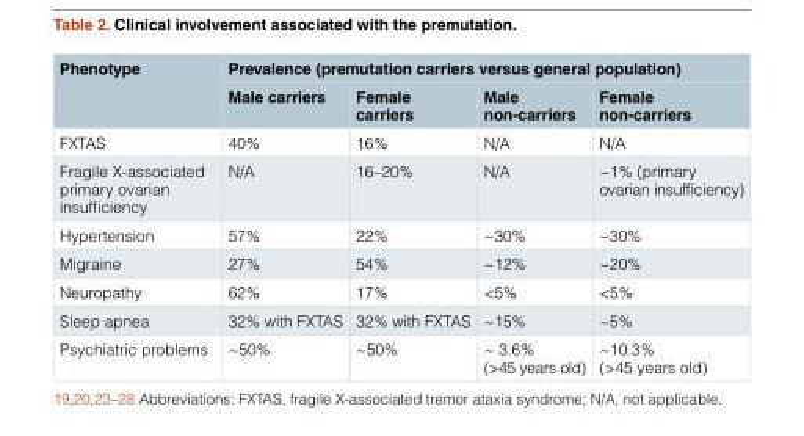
<table><thead><tr><td rowspan="2">Phenotype</td><td colspan="4">Prevalence (premutation carriers versus general population)</td></tr><tr><td>Male carriers</td><td>Female carriers</td><td>Male non-carriers</td><td>Female non-carriers</td></tr></thead><tbody><tr><td>FXTAS</td><td>40%</td><td>16%</td><td>N/A</td><td>N/A</td></tr><tr><td>Fragile X-associated primary ovarian insufficiency</td><td>N/A</td><td>16–20%</td><td>N/A</td><td>~1% (primary ovarian insufficiency)</td></tr><tr><td>Hypertension</td><td>57%</td><td>22%</td><td>~30%</td><td>~30%</td></tr><tr><td>Migraine</td><td>27%</td><td>54%</td><td>~12%</td><td>~20%</td></tr><tr><td>Neuropathy</td><td>62%</td><td>17%</td><td>&lt;5%</td><td>&lt;5%</td></tr><tr><td>Sleep apnea</td><td>32% with FXTAS</td><td>32% with FXTAS</td><td>~15%</td><td>~5%</td></tr><tr><td>Psychiatric problems</td><td>~50%</td><td>~50%</td><td>~ 3.6% (&gt;45 years old)</td><td>~10.3% (&gt;45 years old)</td></tr></tbody></table>